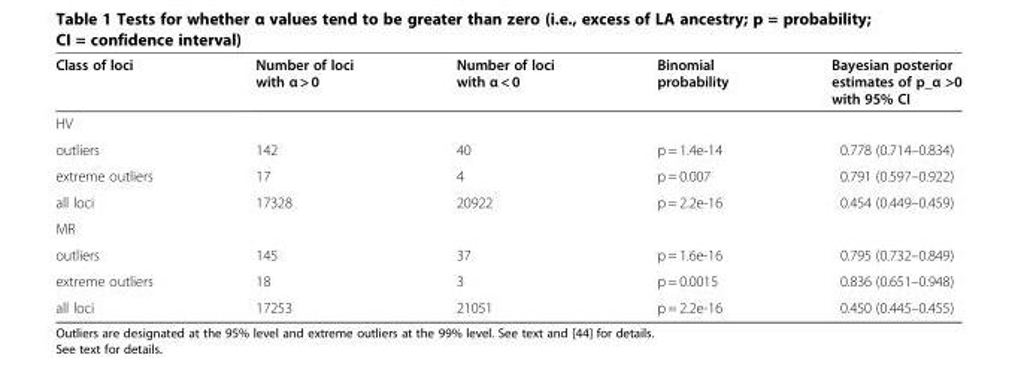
<table><thead><tr><td>Class of loci</td><td>Number of loci with α &gt; 0</td><td>Number of loci with α &lt; 0</td><td>Binomial probability</td><td>Bayesian posterior estimates of p_α &gt;0 with 95% CI</td></tr></thead><tbody><tr><td colspan="5">HV</td></tr><tr><td>outliers</td><td>142</td><td>40</td><td>p = 1.4e-14</td><td>0.778 (0.714–0.834)</td></tr><tr><td>extreme outliers</td><td>17</td><td>4</td><td>p = 0.007</td><td>0.791 (0.597–0.922)</td></tr><tr><td>all loci</td><td>17328</td><td>20922</td><td>p = 2.2e-16</td><td>0.454 (0.449–0.459)</td></tr><tr><td colspan="5">MR</td></tr><tr><td>outliers</td><td>145</td><td>37</td><td>p = 1.6e-16</td><td>0.795 (0.732–0.849)</td></tr><tr><td>extreme outliers</td><td>18</td><td>3</td><td>p = 0.0015</td><td>0.836 (0.651–0.948)</td></tr><tr><td>all loci</td><td>17253</td><td>21051</td><td>p = 2.2e-16</td><td>0.450 (0.445–0.455)</td></tr></tbody></table>